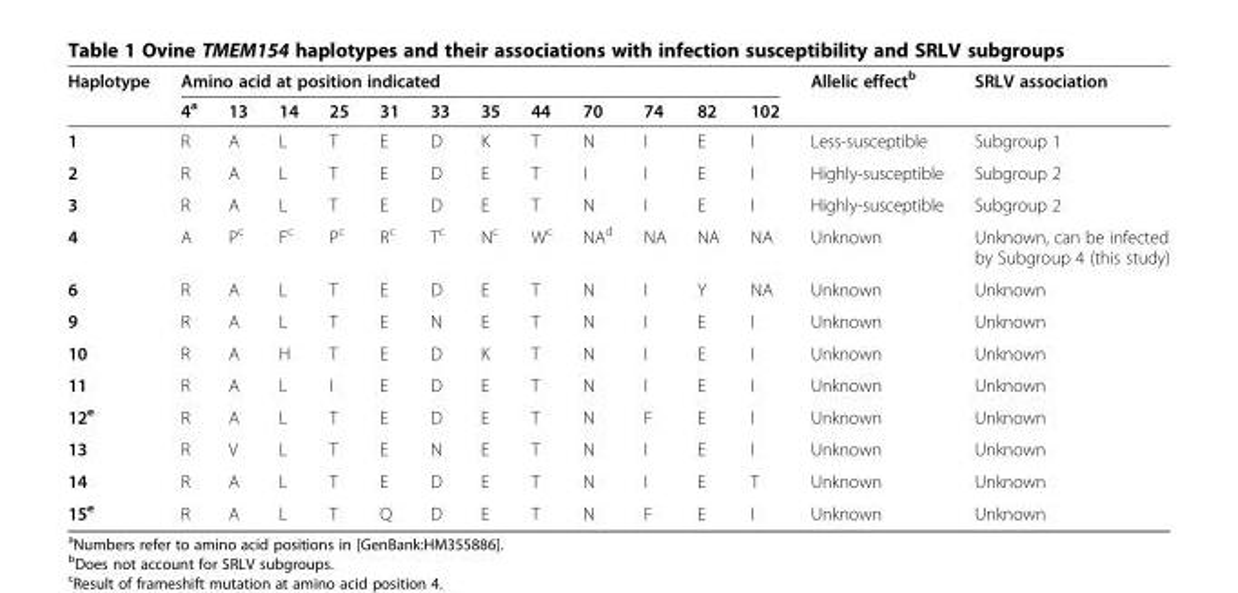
<table><thead><tr><td rowspan="2">Haplotype</td><td colspan="12">Amino acid at position indicated</td><td rowspan="2">Allelic effect<sup>b</sup></td><td rowspan="2">SRLV association</td></tr><tr><td>4<sup>a</sup></td><td>13</td><td>14</td><td>25</td><td>31</td><td>33</td><td>35</td><td>44</td><td>70</td><td>74</td><td>82</td><td>102</td></tr></thead><tbody><tr><td>1</td><td>R</td><td>A</td><td>L</td><td>T</td><td>E</td><td>D</td><td>K</td><td>T</td><td>N</td><td>I</td><td>E</td><td>I</td><td>Less-susceptible</td><td>Subgroup 1</td></tr><tr><td>2</td><td>R</td><td>A</td><td>L</td><td>T</td><td>E</td><td>D</td><td>E</td><td>T</td><td>I</td><td>I</td><td>E</td><td>I</td><td>Highly-susceptible</td><td>Subgroup 2</td></tr><tr><td>3</td><td>R</td><td>A</td><td>L</td><td>T</td><td>E</td><td>D</td><td>E</td><td>T</td><td>N</td><td>I</td><td>E</td><td>I</td><td>Highly-susceptible</td><td>Subgroup 2</td></tr><tr><td>4</td><td>A</td><td>P<sup>c</sup></td><td>F<sup>c</sup></td><td>P<sup>c</sup></td><td>R<sup>c</sup></td><td>T<sup>c</sup></td><td>N<sup>c</sup></td><td>W<sup>c</sup></td><td>NA<sup>d</sup></td><td>NA</td><td>NA</td><td>NA</td><td>Unknown</td><td>Unknown, can be infected by Subgroup 4 (this study)</td></tr><tr><td>6</td><td>R</td><td>A</td><td>L</td><td>T</td><td>E</td><td>D</td><td>E</td><td>T</td><td>N</td><td>I</td><td>Y</td><td>NA</td><td>Unknown</td><td>Unknown</td></tr><tr><td>9</td><td>R</td><td>A</td><td>L</td><td>T</td><td>E</td><td>N</td><td>E</td><td>T</td><td>N</td><td>I</td><td>E</td><td>I</td><td>Unknown</td><td>Unknown</td></tr><tr><td>10</td><td>R</td><td>A</td><td>H</td><td>T</td><td>E</td><td>D</td><td>K</td><td>T</td><td>N</td><td>I</td><td>E</td><td>I</td><td>Unknown</td><td>Unknown</td></tr><tr><td>11</td><td>R</td><td>A</td><td>L</td><td>I</td><td>E</td><td>D</td><td>E</td><td>T</td><td>N</td><td>I</td><td>E</td><td>I</td><td>Unknown</td><td>Unknown</td></tr><tr><td>12<sup>e</sup></td><td>R</td><td>A</td><td>L</td><td>T</td><td>E</td><td>D</td><td>E</td><td>T</td><td>N</td><td>F</td><td>E</td><td>I</td><td>Unknown</td><td>Unknown</td></tr><tr><td>13</td><td>R</td><td>V</td><td>L</td><td>T</td><td>E</td><td>N</td><td>E</td><td>T</td><td>N</td><td>I</td><td>E</td><td>I</td><td>Unknown</td><td>Unknown</td></tr><tr><td>14</td><td>R</td><td>A</td><td>L</td><td>T</td><td>E</td><td>D</td><td>E</td><td>T</td><td>N</td><td>I</td><td>E</td><td>T</td><td>Unknown</td><td>Unknown</td></tr><tr><td>15<sup>e</sup></td><td>R</td><td>A</td><td>L</td><td>T</td><td>Q</td><td>D</td><td>E</td><td>T</td><td>N</td><td>F</td><td>E</td><td>I</td><td>Unknown</td><td>Unknown</td></tr></tbody></table>